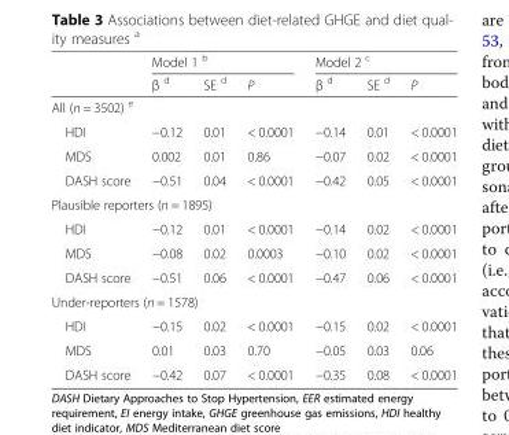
<table><thead><tr><td rowspan="2"></td><td colspan="3">Model 1 <sup>b</sup></td><td colspan="3">Model 2 <sup>c</sup></td></tr><tr><td>β <sup>d</sup></td><td>SE <sup>d</sup></td><td>P</td><td>β <sup>d</sup></td><td>SE <sup>d</sup></td><td>P</td></tr></thead><tbody><tr><td colspan="7">All (n = 3502) <sup>e</sup></td></tr><tr><td>HDI</td><td>−0.12</td><td>0.01</td><td>&lt; 0.0001</td><td>−0.14</td><td>0.01</td><td>&lt; 0.0001</td></tr><tr><td>MDS</td><td>0.002</td><td>0.01</td><td>0.86</td><td>−0.07</td><td>0.02</td><td>&lt; 0.0001</td></tr><tr><td>DASH score</td><td>−0.51</td><td>0.04</td><td>&lt; 0.0001</td><td>−0.42</td><td>0.05</td><td>&lt; 0.0001</td></tr><tr><td colspan="7">Plausible reporters (n = 1895)</td></tr><tr><td>HDI</td><td>−0.12</td><td>0.01</td><td>&lt; 0.0001</td><td>−0.14</td><td>0.02</td><td>&lt; 0.0001</td></tr><tr><td>MDS</td><td>−0.08</td><td>0.02</td><td>0.0003</td><td>−0.10</td><td>0.02</td><td>&lt; 0.0001</td></tr><tr><td>DASH score</td><td>−0.51</td><td>0.06</td><td>&lt; 0.0001</td><td>−0.47</td><td>0.06</td><td>&lt; 0.0001</td></tr><tr><td colspan="7">Under-reporters (n = 1578)</td></tr><tr><td>HDI</td><td>−0.15</td><td>0.02</td><td>&lt; 0.0001</td><td>−0.15</td><td>0.02</td><td>&lt; 0.0001</td></tr><tr><td>MDS</td><td>0.01</td><td>0.03</td><td>0.70</td><td>−0.05</td><td>0.03</td><td>0.06</td></tr><tr><td>DASH score</td><td>−0.42</td><td>0.07</td><td>&lt; 0.0001</td><td>−0.35</td><td>0.08</td><td>&lt; 0.0001</td></tr></tbody></table>